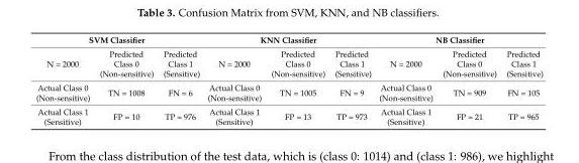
<table><thead><tr><td colspan="3">SVM Classifier</td><td colspan="3">KNN Classifier</td><td colspan="3">NB Classifier</td></tr><tr><td>N = 2000</td><td>Predicted Class 0 (Non-sensitive)</td><td>Predicted Class 1 (Sensitive)</td><td>N = 2000</td><td>Predicted Class 0 (Non-sensitive)</td><td>Predicted Class 1 (Sensitive)</td><td>N = 2000</td><td>Predicted Class 0 (Non-sensitive)</td><td>Predicted Class 1 (Sensitive)</td></tr></thead><tbody><tr><td>Actual Class 0 (Non-sensitive)</td><td>TN = 1008</td><td>FN = 6</td><td>Actual Class 0 (Non-sensitive)</td><td>TN = 1005</td><td>FN = 9</td><td>Actual Class 0 (Non-sensitive)</td><td>TN = 909</td><td>FN = 105</td></tr><tr><td>Actual Class 1 (Sensitive)</td><td>FP = 10</td><td>TP = 976</td><td>Actual Class 1 (Sensitive)</td><td>FP = 13</td><td>TP = 973</td><td>Actual Class 1 (Sensitive)</td><td>FP = 21</td><td>TP = 965</td></tr></tbody></table>